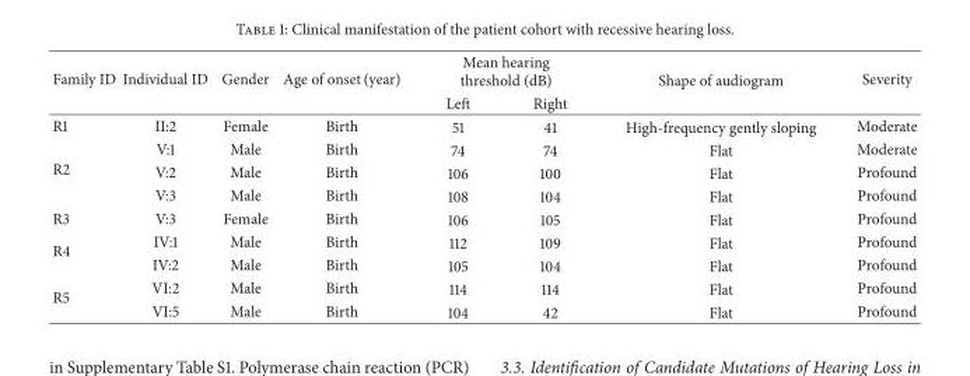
<table><thead><tr><td rowspan="2">Family ID</td><td rowspan="2">Individual ID</td><td rowspan="2">Gender</td><td rowspan="2">Age of onset (year)</td><td colspan="2">Mean hearing threshold (dB)</td><td rowspan="2">Shape of audiogram</td><td rowspan="2">Severity</td></tr><tr><td>Left</td><td>Right</td></tr></thead><tbody><tr><td>R1</td><td>II:2</td><td>Female</td><td>Birth</td><td>51</td><td>41</td><td>High-frequency gently sloping</td><td>Moderate</td></tr><tr><td rowspan="3">R2</td><td>V:1</td><td>Male</td><td>Birth</td><td>74</td><td>74</td><td>Flat</td><td>Moderate</td></tr><tr><td>V:2</td><td>Male</td><td>Birth</td><td>106</td><td>100</td><td>Flat</td><td>Profound</td></tr><tr><td>V:3</td><td>Male</td><td>Birth</td><td>108</td><td>104</td><td>Flat</td><td>Profound</td></tr><tr><td>R3</td><td>V:3</td><td>Female</td><td>Birth</td><td>106</td><td>105</td><td>Flat</td><td>Profound</td></tr><tr><td rowspan="2">R4</td><td>IV:1</td><td>Male</td><td>Birth</td><td>112</td><td>109</td><td>Flat</td><td>Profound</td></tr><tr><td>IV:2</td><td>Male</td><td>Birth</td><td>105</td><td>104</td><td>Flat</td><td>Profound</td></tr><tr><td rowspan="2">R5</td><td>VI:2</td><td>Male</td><td>Birth</td><td>114</td><td>114</td><td>Flat</td><td>Profound</td></tr><tr><td>VI:5</td><td>Male</td><td>Birth</td><td>104</td><td>42</td><td>Flat</td><td>Profound</td></tr></tbody></table>